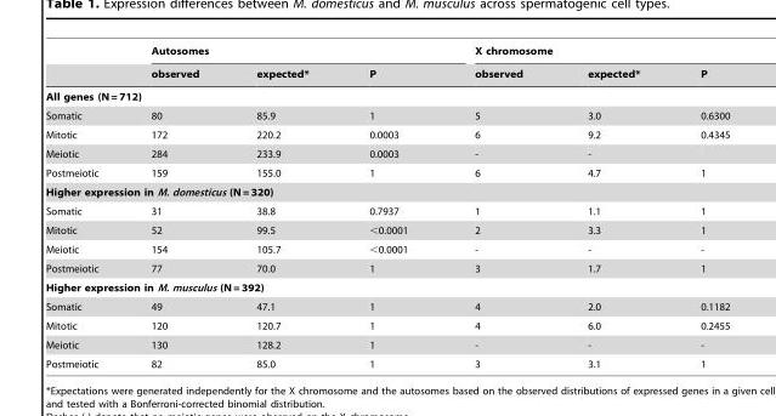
<table><thead><tr><td rowspan="2"></td><td colspan="3">Autosomes</td><td colspan="3">X chromosome</td></tr><tr><td>observed</td><td>expected*</td><td>P</td><td>observed</td><td>expected*</td><td>P</td></tr></thead><tbody><tr><td colspan="7">All genes (N = 712)</td></tr><tr><td>Somatic</td><td>80</td><td>85.9</td><td>1</td><td>5</td><td>3.0</td><td>0.6300</td></tr><tr><td>Mitotic</td><td>172</td><td>220.2</td><td>0.0003</td><td>6</td><td>9.2</td><td>0.4345</td></tr><tr><td>Meiotic</td><td>284</td><td>233.9</td><td>0.0003</td><td>-</td><td>-</td><td></td></tr><tr><td>Postmeiotic</td><td>159</td><td>155.0</td><td>1</td><td>6</td><td>4.7</td><td>1</td></tr><tr><td colspan="7">Higher expression in M. domesticus (N = 320)</td></tr><tr><td>Somatic</td><td>31</td><td>38.8</td><td>0.7937</td><td>1</td><td>1.1</td><td>1</td></tr><tr><td>Mitotic</td><td>52</td><td>99.5</td><td>&lt;0.0001</td><td>2</td><td>3.3</td><td>1</td></tr><tr><td>Meiotic</td><td>154</td><td>105.7</td><td>&lt;0.0001</td><td>-</td><td>-</td><td>-</td></tr><tr><td>Postmeiotic</td><td>77</td><td>70.0</td><td>1</td><td>3</td><td>1.7</td><td>1</td></tr><tr><td colspan="7">Higher expression in M. musculus (N = 392)</td></tr><tr><td>Somatic</td><td>49</td><td>47.1</td><td>1</td><td>4</td><td>2.0</td><td>0.1182</td></tr><tr><td>Mitotic</td><td>120</td><td>120.7</td><td>1</td><td>4</td><td>6.0</td><td>0.2455</td></tr><tr><td>Meiotic</td><td>130</td><td>128.2</td><td>1</td><td>-</td><td>-</td><td>-</td></tr><tr><td>Postmeiotic</td><td>82</td><td>85.0</td><td>1</td><td>3</td><td>3.1</td><td>1</td></tr></tbody></table>